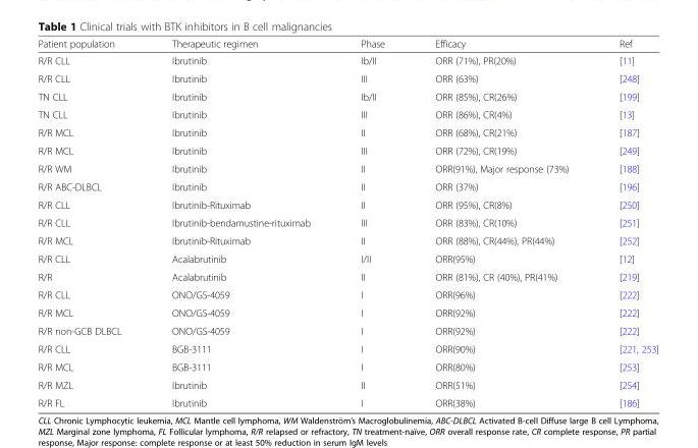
<table><thead><tr><td>Patient population</td><td>Therapeutic regimen</td><td>Phase</td><td>Efficacy</td><td>Ref</td></tr></thead><tbody><tr><td>R/R CLL</td><td>Ibrutinib</td><td>Ib/II</td><td>ORR (71%), PR(20%)</td><td>[11]</td></tr><tr><td>R/R CLL</td><td>Ibrutinib</td><td>III</td><td>ORR (63%)</td><td>[248]</td></tr><tr><td>TN CLL</td><td>Ibrutinib</td><td>Ib/II</td><td>ORR (85%), CR(26%)</td><td>[199]</td></tr><tr><td>TN CLL</td><td>Ibrutinib</td><td>III</td><td>ORR (86%), CR(4%)</td><td>[13]</td></tr><tr><td>R/R MCL</td><td>Ibrutinib</td><td>II</td><td>ORR (68%), CR(21%)</td><td>[187]</td></tr><tr><td>R/R MCL</td><td>Ibrutinib</td><td>III</td><td>ORR (72%), CR(19%)</td><td>[249]</td></tr><tr><td>R/R WM</td><td>Ibrutinib</td><td>II</td><td>ORR(91%), Major response (73%)</td><td>[188]</td></tr><tr><td>R/R ABC-DLBCL</td><td>Ibrutinib</td><td>II</td><td>ORR (37%)</td><td>[196]</td></tr><tr><td>R/R CLL</td><td>Ibrutinib-Rituximab</td><td>II</td><td>ORR (95%), CR(8%)</td><td>[250]</td></tr><tr><td>R/R CLL</td><td>Ibrutinib-bendamustine-rituximab</td><td>III</td><td>ORR (83%), CR(10%)</td><td>[251]</td></tr><tr><td>R/R MCL</td><td>Ibrutinib-Rituximab</td><td>II</td><td>ORR (88%), CR(44%), PR(44%)</td><td>[252]</td></tr><tr><td>R/R CLL</td><td>Acalabrutinib</td><td>I/II</td><td>ORR(95%)</td><td>[12]</td></tr><tr><td>R/R</td><td>Acalabrutinib</td><td>II</td><td>ORR (81%), CR (40%), PR(41%)</td><td>[219]</td></tr><tr><td>R/R CLL</td><td>ONO/GS-4059</td><td>I</td><td>ORR(96%)</td><td>[222]</td></tr><tr><td>R/R MCL</td><td>ONO/GS-4059</td><td>I</td><td>ORR(92%)</td><td>[222]</td></tr><tr><td>R/R non-GCB DLBCL</td><td>ONO/GS-4059</td><td>I</td><td>ORR(92%)</td><td>[222]</td></tr><tr><td>R/R CLL</td><td>BGB-3111</td><td>I</td><td>ORR(90%)</td><td>[221, 253]</td></tr><tr><td>R/R MCL</td><td>BGB-3111</td><td>I</td><td>ORR(80%)</td><td>[253]</td></tr><tr><td>R/R MZL</td><td>Ibrutinib</td><td>II</td><td>ORR(51%)</td><td>[254]</td></tr><tr><td>R/R FL</td><td>Ibrutinib</td><td>I</td><td>ORR(38%)</td><td>[186]</td></tr></tbody></table>